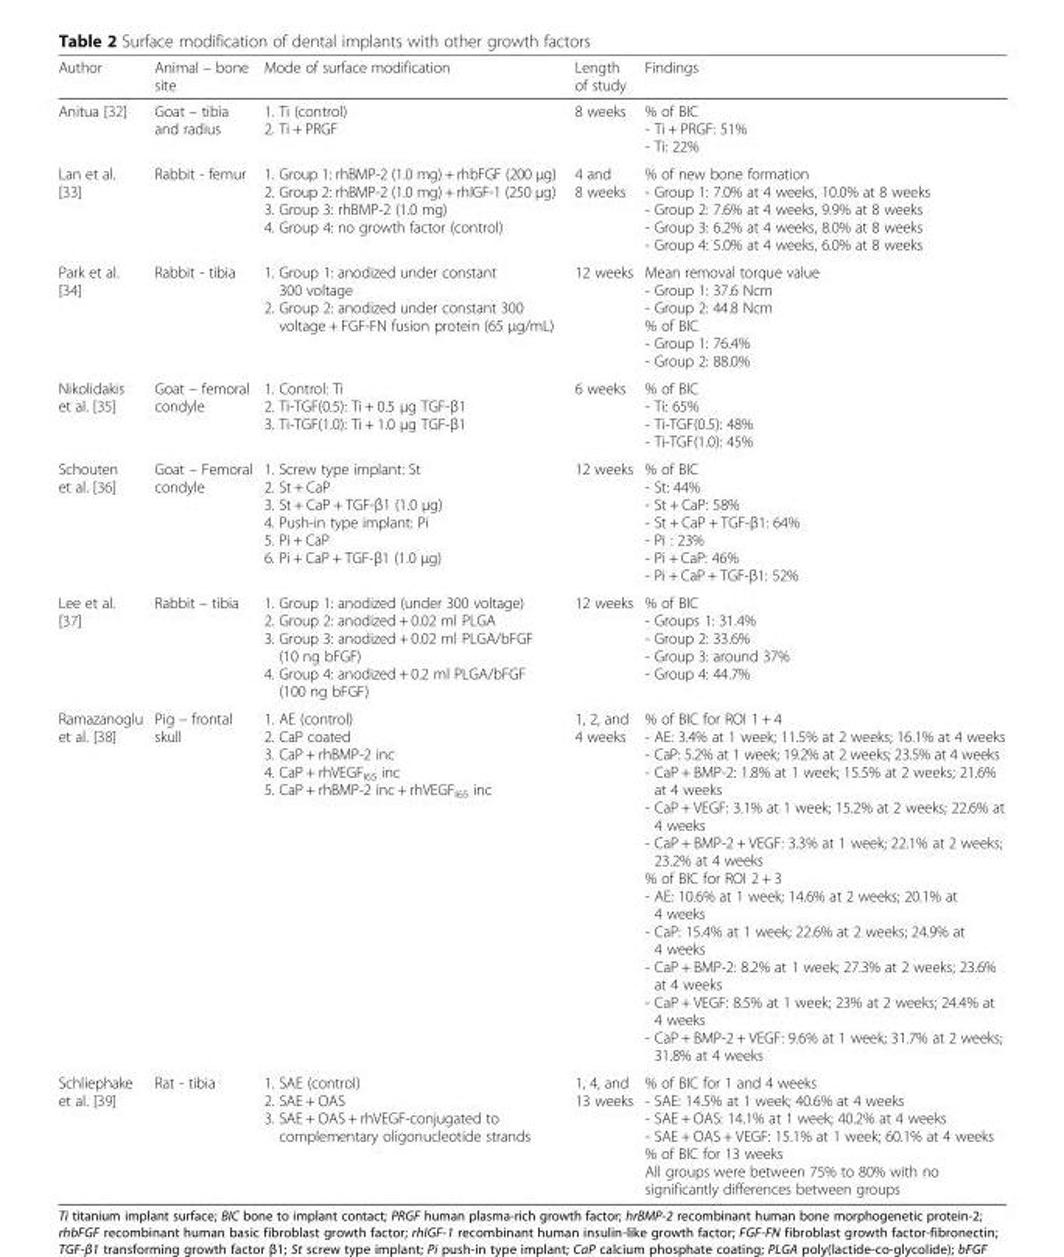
<table><thead><tr><td>Author</td><td>Animal – bone site</td><td>Mode of surface modification</td><td>Length of study</td><td>Findings</td></tr></thead><tbody><tr><td>Anitua [32]</td><td>Goat – tibia and radius</td><td>1. Ti (control) 2. Ti + PRGF</td><td>8 weeks</td><td>% of BIC - Ti + PRGF: 51% - Ti: 22%</td></tr><tr><td>Lan et al. [33]</td><td>Rabbit - femur</td><td>1. Group 1: rhBMP-2 (1.0 mg) + rhbFGF (200 μg) 2. Group 2: rhBMP-2 (1.0 mg) + rhIGF-1 (250 μg) 3. Group 3: rhBMP-2 (1.0 mg) 4. Group 4: no growth factor (control)</td><td>4 and 8 weeks</td><td>% of new bone formation - Group 1: 7.0% at 4 weeks, 10.0% at 8 weeks - Group 2: 7.6% at 4 weeks, 9.9% at 8 weeks - Group 3: 6.2% at 4 weeks, 8.0% at 8 weeks - Group 4: 5.0% at 4 weeks, 6.0% at 8 weeks</td></tr><tr><td>Park et al. [34]</td><td>Rabbit - tibia</td><td>1. Group 1: anodized under constant 300 voltage 2. Group 2: anodized under constant 300 voltage + FGF-FN fusion protein (65 μg/mL)</td><td>12 weeks</td><td>Mean removal torque value - Group 1: 37.6 Ncm - Group 2: 44.8 Ncm % of BIC - Group 1: 76.4% - Group 2: 88.0%</td></tr><tr><td>Nikolidakis et al. [35]</td><td>Goat – femoral condyle</td><td>1. Control: Ti 2. Ti-TGF(0.5): Ti + 0.5 μg TGF-β1 3. Ti-TGF(1.0): Ti + 1.0 μg TGF-β1</td><td>6 weeks</td><td>% of BIC - Ti: 65% - Ti-TGF(0.5): 48% - Ti-TGF(1.0): 45%</td></tr><tr><td>Schouten et al. [36]</td><td>Goat – Femoral condyle</td><td>1. Screw type implant: St 2. St + CaP 3. St + CaP + TGF-β1 (1.0 μg) 4. Push-in type implant: Pi 5. Pi + CaP 6. Pi + CaP + TGF-β1 (1.0 μg)</td><td>12 weeks</td><td>% of BIC - St: 44% - St + CaP: 58% - St + CaP + TGF-β1: 64% - Pi : 23% - Pi + CaP: 46% - Pi + CaP + TGF-β1: 52%</td></tr><tr><td>Lee et al. [37]</td><td>Rabbit – tibia</td><td>1. Group 1: anodized (under 300 voltage) 2. Group 2: anodized + 0.02 ml PLGA 3. Group 3: anodized + 0.02 ml PLGA/bFGF (10 ng bFGF) 4. Group 4: anodized + 0.2 ml PLGA/bFGF (100 ng bFGF)</td><td>12 weeks</td><td>% of BIC - Groups 1: 31.4% - Group 2: 33.6% - Group 3: around 37% - Group 4: 44.7%</td></tr><tr><td>Ramazanoglu et al. [38]</td><td>Pig – frontal skull</td><td>1. AE (control) 2. CaP coated 3. CaP + rhBMP-2 inc 4. CaP + rhVEGF<sub>I65</sub> inc 5. CaP + rhBMP-2 inc + rhVEGF<sub>I65</sub> inc</td><td>1, 2, and 4 weeks</td><td>% of BIC for ROI 1 + 4 - AE: 3.4% at 1 week; 11.5% at 2 weeks; 16.1% at 4 weeks - CaP: 5.2% at 1 week; 19.2% at 2 weeks; 23.5% at 4 weeks - CaP + BMP-2: 1.8% at 1 week; 15.5% at 2 weeks; 21.6% at 4 weeks - CaP + VEGF: 3.1% at 1 week; 15.2% at 2 weeks; 22.6% at 4 weeks - CaP + BMP-2 + VEGF: 3.3% at 1 week; 22.1% at 2 weeks; 23.2% at 4 weeks % of BIC for ROI 2 + 3 - AE: 10.6% at 1 week; 14.6% at 2 weeks; 20.1% at 4 weeks - CaP: 15.4% at 1 week; 22.6% at 2 weeks; 24.9% at 4 weeks - CaP + BMP-2: 8.2% at 1 week; 27.3% at 2 weeks; 23.6% at 4 weeks - CaP + VEGF: 8.5% at 1 week; 23% at 2 weeks; 24.4% at 4 weeks - CaP + BMP-2 + VEGF: 9.6% at 1 week; 31.7% at 2 weeks; 31.8% at 4 weeks</td></tr><tr><td>Schliephake et al. [39]</td><td>Rat - tibia</td><td>1. SAE (control) 2. SAE + OAS 3. SAE + OAS + rhVEGF-conjugated to complementary oligonucleotide strands</td><td>1, 4, and 13 weeks</td><td>% of BIC for 1 and 4 weeks - SAE: 14.5% at 1 week; 40.6% at 4 weeks - SAE + OAS: 14.1% at 1 week; 40.2% at 4 weeks - SAE + OAS + VEGF: 15.1% at 1 week; 60.1% at 4 weeks % of BIC for 13 weeks All groups were between 75% to 80% with no significantly differences between groups</td></tr></tbody></table>